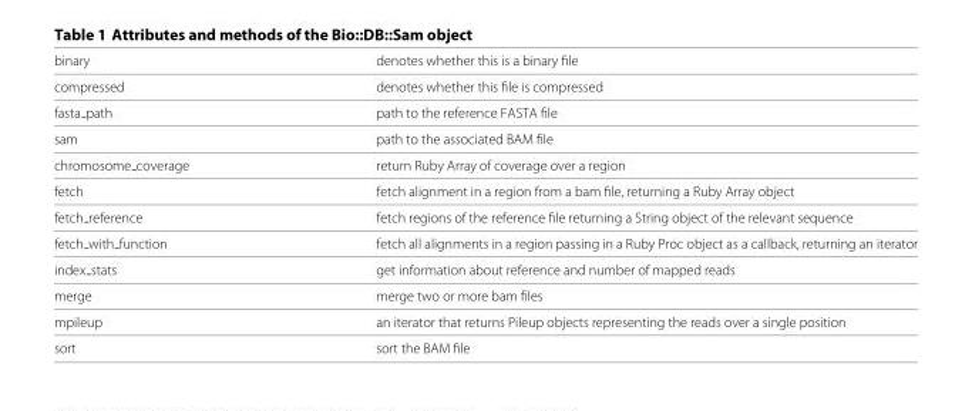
<table><thead><tr><td>binary</td><td>denotes whether this is a binary file</td></tr></thead><tbody><tr><td>compressed</td><td>denotes whether this file is compressed</td></tr><tr><td>fasta path</td><td>path to the reference FASTA file</td></tr><tr><td>sam</td><td>path to the associated BAM file</td></tr><tr><td>chromosome coverage</td><td>return Ruby Array of coverage over a region</td></tr><tr><td>fetch</td><td>fetch alignment in a region from a bam file, returning a Ruby Array object</td></tr><tr><td>fetch reference</td><td>fetch regions of the reference file returning a String object of the relevant sequence</td></tr><tr><td>fetch <sub>with</sub> function</td><td>fetch all alignments in a region passing in a Ruby Proc object as a callback, returning an iterator</td></tr><tr><td>index stats</td><td>get information about reference and number of mapped reads</td></tr><tr><td>merge</td><td>merge two or more bam files</td></tr><tr><td>mpileup</td><td>an iterator that returns Pileup objects representing the reads over a single position</td></tr><tr><td>sort</td><td>sort the BAM file</td></tr></tbody></table>